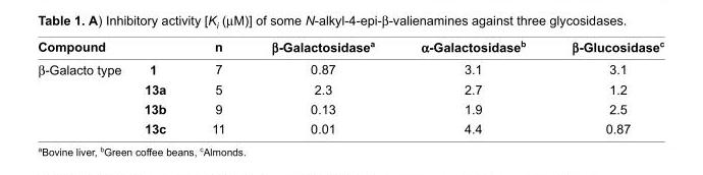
<table><thead><tr><td>Compound</td><td></td><td>n</td><td>β-Galactosidase<sup>a</sup></td><td>α-Galactosidase<sup>b</sup></td><td>β-Glucosidase<sup>c</sup></td></tr></thead><tbody><tr><td rowspan="4">β-Galacto type</td><td>1</td><td>7</td><td>0.87</td><td>3.1</td><td>3.1</td></tr><tr><td>13a</td><td>5</td><td>2.3</td><td>2.7</td><td>1.2</td></tr><tr><td>13b</td><td>9</td><td>0.13</td><td>1.9</td><td>2.5</td></tr><tr><td>13c</td><td>11</td><td>0.01</td><td>4.4</td><td>0.87</td></tr></tbody></table>